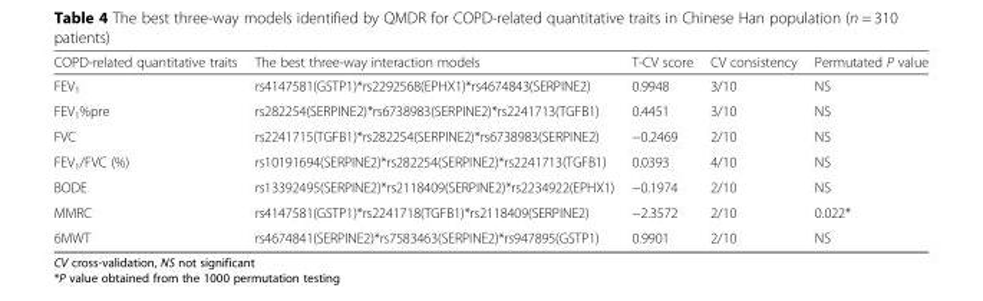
<table><thead><tr><td>COPD-related quantitative traits</td><td>The best three-way interaction models</td><td>T-CV score</td><td>CV consistency</td><td>Permutated P value</td></tr></thead><tbody><tr><td>FEV<sub>1</sub></td><td>rs4147581(GSTP1)*rs2292568(EPHX1)*rs4674843(SERPINE2)</td><td>0.9948</td><td>3/10</td><td>NS</td></tr><tr><td>FEV<sub>1</sub>%pre</td><td>rs282254(SERPINE2)*rs6738983(SERPINE2)*rs2241713(TGFB1)</td><td>0.4451</td><td>3/10</td><td>NS</td></tr><tr><td>FVC</td><td>rs2241715(TGFB1)*rs282254(SERPINE2)*rs6738983(SERPINE2)</td><td>−0.2469</td><td>2/10</td><td>NS</td></tr><tr><td>FEV<sub>1</sub>/FVC (%)</td><td>rs10191694(SERPINE2)*rs282254(SERPINE2)*rs2241713(TGFB1)</td><td>0.0393</td><td>4/10</td><td>NS</td></tr><tr><td>BODE</td><td>rs13392495(SERPINE2)*rs2118409(SERPINE2)*rs2234922(EPHX1)</td><td>−0.1974</td><td>2/10</td><td>NS</td></tr><tr><td>MMRC</td><td>rs4147581(GSTP1)*rs2241718(TGFB1)*rs2118409(SERPINE2)</td><td>−2.3572</td><td>2/10</td><td>0.022*</td></tr><tr><td>6MWT</td><td>rs4674841(SERPINE2)*rs7583463(SERPINE2)*rs947895(GSTP1)</td><td>0.9901</td><td>2/10</td><td>NS</td></tr></tbody></table>